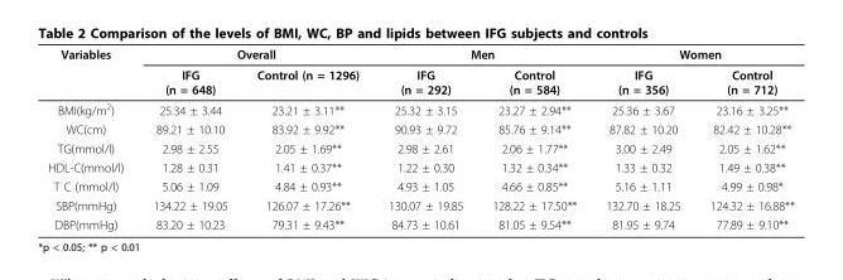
<table><thead><tr><td rowspan="2">Variables</td><td colspan="2">Overall</td><td colspan="2">Men</td><td colspan="2">Women</td></tr><tr><td>IFG (n = 648)</td><td>Control (n = 1296)</td><td>IFG (n = 292)</td><td>Control (n = 584)</td><td>IFG (n = 356)</td><td>Control (n = 712)</td></tr></thead><tbody><tr><td>BMI(kg/m<sup>2</sup>)</td><td>25.34 ± 3.44</td><td>23.21 ± 3.11**</td><td>25.32 ± 3.15</td><td>23.27 ± 2.94**</td><td>25.36 ± 3.67</td><td>23.16 ± 3.25**</td></tr><tr><td>WC(cm)</td><td>89.21 ± 10.10</td><td>83.92 ± 9.92**</td><td>90.93 ± 9.72</td><td>85.76 ± 9.14**</td><td>87.82 ± 10.20</td><td>82.42 ± 10.28**</td></tr><tr><td>TG(mmol/l)</td><td>2.98 ± 2.55</td><td>2.05 ± 1.69**</td><td>2.98 ± 2.61</td><td>2.06 ± 1.77**</td><td>3.00 ± 2.49</td><td>2.05 ± 1.62**</td></tr><tr><td>HDL-C(mmol/l)</td><td>1.28 ± 0.31</td><td>1.41 ± 0.37**</td><td>1.22 ± 0.30</td><td>1.32 ± 0.34**</td><td>1.33 ± 0.32</td><td>1.49 ± 0.38**</td></tr><tr><td>T C (mmol/l)</td><td>5.06 ± 1.09</td><td>4.84 ± 0.93**</td><td>4.93 ± 1.05</td><td>4.66 ± 0.85**</td><td>5.16 ± 1.11</td><td>4.99 ± 0.98*</td></tr><tr><td>SBP(mmHg)</td><td>134.22 ± 19.05</td><td>126.07 ± 17.26**</td><td>130.07 ± 19.85</td><td>128.22 ± 17.50**</td><td>132.70 ± 18.25</td><td>124.32 ± 16.88**</td></tr><tr><td>DBP(mmHg)</td><td>83.20 ± 10.23</td><td>79.31 ± 9.43**</td><td>84.73 ± 10.61</td><td>81.05 ± 9.54**</td><td>81.95 ± 9.74</td><td>77.89 ± 9.10**</td></tr></tbody></table>